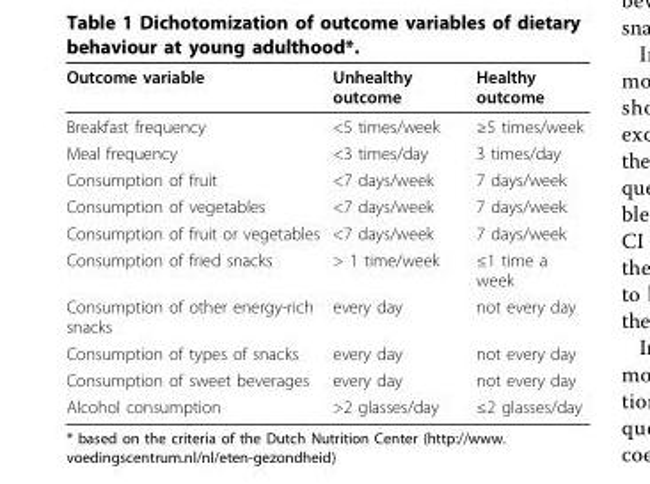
<table><thead><tr><td>Outcome variable</td><td>Unhealthy outcome</td><td>Healthy outcome</td></tr></thead><tbody><tr><td>Breakfast frequency</td><td>&lt;5 times/week</td><td>≥5 times/week</td></tr><tr><td>Meal frequency</td><td>&lt;3 times/day</td><td>3 times/day</td></tr><tr><td>Consumption of fruit</td><td>&lt;7 days/week</td><td>7 days/week</td></tr><tr><td>Consumption of vegetables</td><td>&lt;7 days/week</td><td>7 days/week</td></tr><tr><td>Consumption of fruit or vegetables</td><td>&lt;7 days/week</td><td>7 days/week</td></tr><tr><td>Consumption of fried snacks</td><td>&gt; 1 time/week</td><td>≤1 time a week</td></tr><tr><td>Consumption of other energy-rich snacks</td><td>every day</td><td>not every day</td></tr><tr><td>Consumption of types of snacks</td><td>every day</td><td>not every day</td></tr><tr><td>Consumption of sweet beverages</td><td>every day</td><td>not every day</td></tr><tr><td>Alcohol consumption</td><td>&gt;2 glasses/day</td><td>≤2 glasses/day</td></tr></tbody></table>